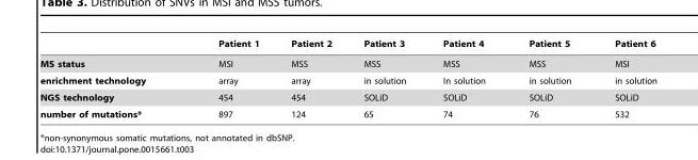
<table><thead><tr><td></td><td>Patient 1</td><td>Patient 2</td><td>Patient 3</td><td>Patient 4</td><td>Patient 5</td><td>Patient 6</td></tr></thead><tbody><tr><td>MS status</td><td>MSI</td><td>MSS</td><td>MSS</td><td>MSS</td><td>MSS</td><td>MSI</td></tr><tr><td>enrichment technology</td><td>array</td><td>array</td><td>in solution</td><td>In solution</td><td>in solution</td><td>in solution</td></tr><tr><td>NGS technology</td><td>454</td><td>454</td><td>SOLiD</td><td>SOLiD</td><td>SOLiD</td><td>SOLiD</td></tr><tr><td>number of mutations*</td><td>897</td><td>124</td><td>65</td><td>74</td><td>76</td><td>532</td></tr></tbody></table>